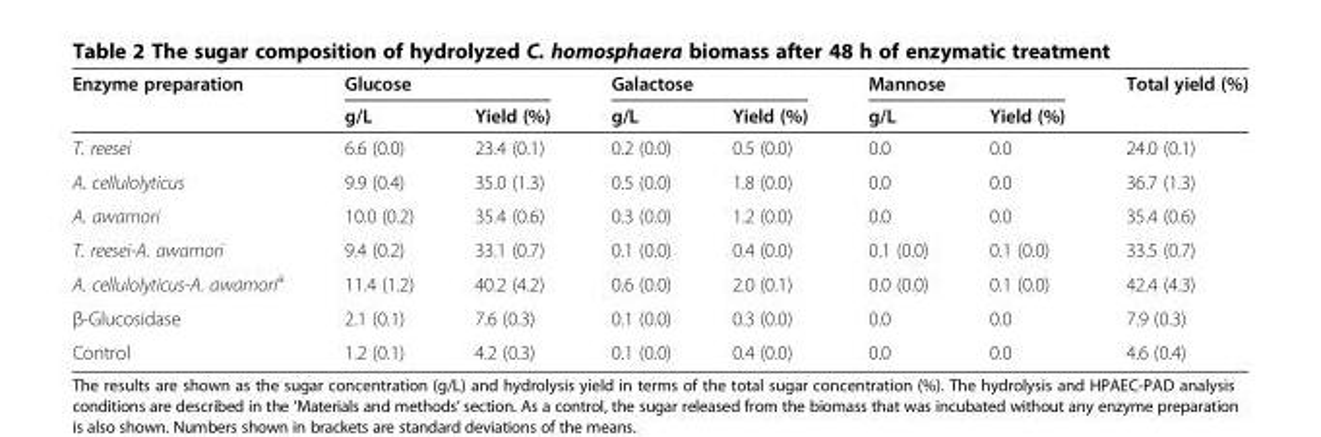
<table><thead><tr><td rowspan="2">Enzyme preparation</td><td colspan="2">Glucose</td><td colspan="2">Galactose</td><td colspan="2">Mannose</td><td rowspan="2">Total yield (%)</td></tr><tr><td>g/L</td><td>Yield (%)</td><td>g/L</td><td>Yield (%)</td><td>g/L</td><td>Yield (%)</td></tr></thead><tbody><tr><td>T. reesei</td><td>6.6 (0.0)</td><td>23.4 (0.1)</td><td>0.2 (0.0)</td><td>0.5 (0.0)</td><td>0.0</td><td>0.0</td><td>24.0 (0.1)</td></tr><tr><td>A. cellulolyticus</td><td>9.9 (0.4)</td><td>35.0 (1.3)</td><td>0.5 (0.0)</td><td>1.8 (0.0)</td><td>0.0</td><td>0.0</td><td>36.7 (1.3)</td></tr><tr><td>A. awamori</td><td>10.0 (0.2)</td><td>35.4 (0.6)</td><td>0.3 (0.0)</td><td>1.2 (0.0)</td><td>0.0</td><td>0.0</td><td>35.4 (0.6)</td></tr><tr><td>T. reesei-A. awamori</td><td>9.4 (0.2)</td><td>33.1 (0.7)</td><td>0.1 (0.0)</td><td>0.4 (0.0)</td><td>0.1 (0.0)</td><td>0.1 (0.0)</td><td>33.5 (0.7)</td></tr><tr><td>A. cellulolyticus-A. awamori<sup>a</sup></td><td>11.4 (1.2)</td><td>40.2 (4.2)</td><td>0.6 (0.0)</td><td>2.0 (0.1)</td><td>0.0 (0.0)</td><td>0.1 (0.0)</td><td>42.4 (4.3)</td></tr><tr><td>β-Glucosidase</td><td>2.1 (0.1)</td><td>7.6 (0.3)</td><td>0.1 (0.0)</td><td>0.3 (0.0)</td><td>0.0</td><td>0.0</td><td>7.9 (0.3)</td></tr><tr><td>Control</td><td>1.2 (0.1)</td><td>4.2 (0.3)</td><td>0.1 (0.0)</td><td>0.4 (0.0)</td><td>0.0</td><td>0.0</td><td>4.6 (0.4)</td></tr></tbody></table>